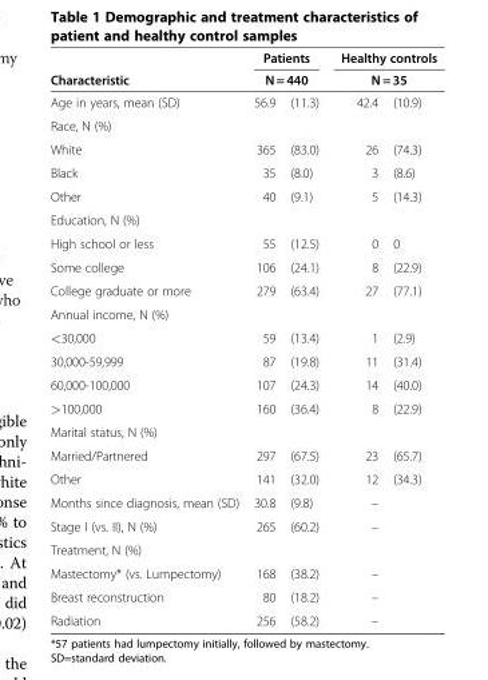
<table><thead><tr><td rowspan="3">Characteristic Age in years, mean (SD)</td><td rowspan="2" colspan="2">Patients N = 440</td><td rowspan="2" colspan="2">Healthy controls N = 35</td></tr><tr></tr><tr><td>56.9</td><td>(11.3)</td><td>42.4</td><td>(10.9)</td></tr></thead><tbody><tr><td colspan="5">Race, N (%)</td></tr><tr><td>White</td><td>365</td><td>(83.0)</td><td>26</td><td>(74.3)</td></tr><tr><td>Black</td><td>35</td><td>(8.0)</td><td>3</td><td>(8.6)</td></tr><tr><td>Other</td><td>40</td><td>(9.1)</td><td>5</td><td>(14.3)</td></tr><tr><td colspan="5">Education, N (%)</td></tr><tr><td>High school or less</td><td>55</td><td>(12.5)</td><td>0</td><td>0</td></tr><tr><td>Some college</td><td>106</td><td>(24.1)</td><td>8</td><td>(22.9)</td></tr><tr><td>College graduate or more</td><td>279</td><td>(63.4)</td><td>27</td><td>(77.1)</td></tr><tr><td colspan="5">Annual income, N (%)</td></tr><tr><td>&lt;30,000</td><td>59</td><td>(13.4)</td><td>1</td><td>(2.9)</td></tr><tr><td>30,000-59,999</td><td>87</td><td>(19.8)</td><td>11</td><td>(31.4)</td></tr><tr><td>60,000-100,000</td><td>107</td><td>(24.3)</td><td>14</td><td>(40.0)</td></tr><tr><td>&gt;100,000</td><td>160</td><td>(36.4)</td><td>8</td><td>(22.9)</td></tr><tr><td colspan="5">Marital status, N (%)</td></tr><tr><td>Married/Partnered</td><td>297</td><td>(67.5)</td><td>23</td><td>(65.7)</td></tr><tr><td>Other</td><td>141</td><td>(32.0)</td><td>12</td><td>(34.3)</td></tr><tr><td>Months since diagnosis, mean (SD)</td><td>30.8</td><td>(9.8)</td><td>–</td><td></td></tr><tr><td>Stage I (vs. II), N (%)</td><td>265</td><td>(60.2)</td><td>–</td><td></td></tr><tr><td colspan="5">Treatment, N (%)</td></tr><tr><td>Mastectomy* (vs. Lumpectomy)</td><td>168</td><td>(38.2)</td><td>–</td><td></td></tr><tr><td>Breast reconstruction</td><td>80</td><td>(18.2)</td><td>–</td><td></td></tr><tr><td>Radiation</td><td>256</td><td>(58.2)</td><td>–</td><td></td></tr></tbody></table>